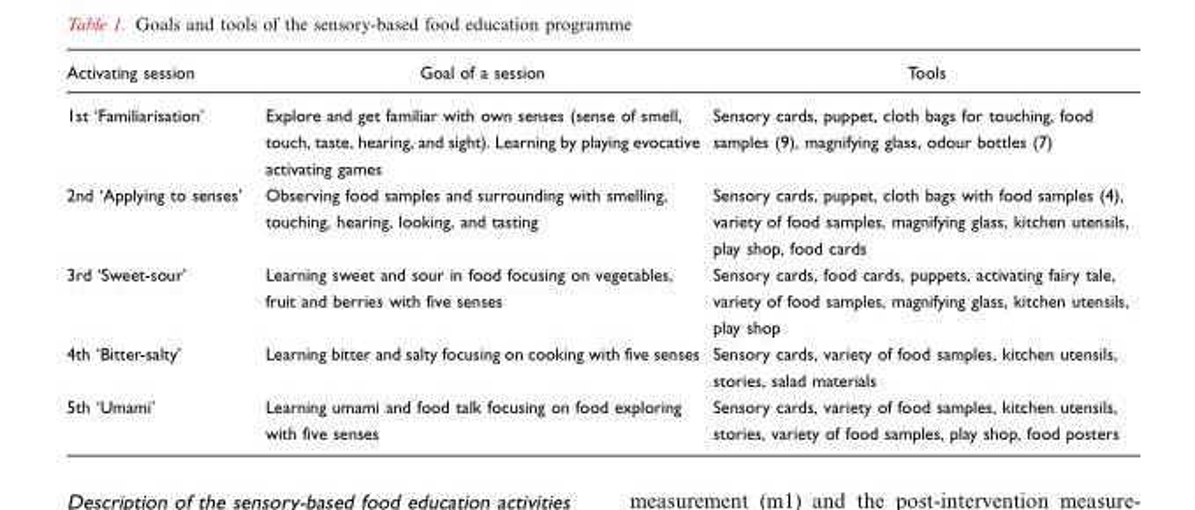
<table><thead><tr><td>Activating session</td><td>Goal of a session</td><td>Tools</td></tr></thead><tbody><tr><td>1st ‘Familiarisation’</td><td>Explore and get familiar with own senses (sense of smell, touch, taste, hearing, and sight). Learning by playing evocative activating games</td><td>Sensory cards, puppet, cloth bags for touching, food samples (9), magnifying glass, odour bottles (7)</td></tr><tr><td>2nd ‘Applying to senses’</td><td>Observing food samples and surrounding with smelling, touching, hearing, looking, and tasting</td><td>Sensory cards, puppet, cloth bags with food samples (4), variety of food samples, magnifying glass, kitchen utensils, play shop, food cards</td></tr><tr><td>3rd ‘Sweet-sour’</td><td>Learning sweet and sour in food focusing on vegetables, fruit and berries with five senses</td><td>Sensory cards, food cards, puppets, activating fairy tale, variety of food samples, magnifying glass, kitchen utensils, play shop</td></tr><tr><td>4th ‘Bitter-salty’</td><td>Learning bitter and salty focusing on cooking with five senses</td><td>Sensory cards, variety of food samples, kitchen utensils, stories, salad materials</td></tr><tr><td>5th ‘Umami’</td><td>Learning umami and food talk focusing on food exploring with five senses</td><td>Sensory cards, variety of food samples, kitchen utensils, stories, variety of food samples, play shop, food posters</td></tr></tbody></table>